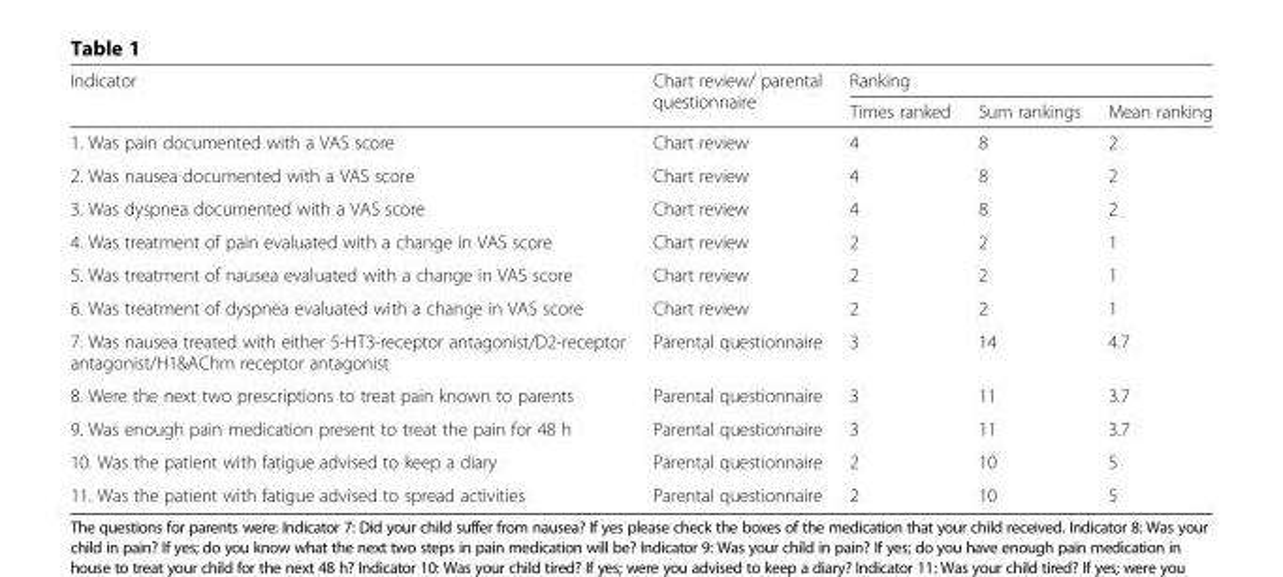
<table><thead><tr><td rowspan="2">Indicator</td><td rowspan="2">Chart review/ parental questionnaire</td><td colspan="3">Ranking</td></tr><tr><td>Times ranked</td><td>Sum rankings</td><td>Mean ranking</td></tr></thead><tbody><tr><td>1. Was pain documented with a VAS score</td><td>Chart review</td><td>4</td><td>8</td><td>2</td></tr><tr><td>2. Was nausea documented with a VAS score</td><td>Chart review</td><td>4</td><td>8</td><td>2</td></tr><tr><td>3. Was dyspnea documented with a VAS score</td><td>Chart review</td><td>4</td><td>8</td><td>2</td></tr><tr><td>4. Was treatment of pain evaluated with a change in VAS score</td><td>Chart review</td><td>2</td><td>2</td><td>1</td></tr><tr><td>5. Was treatment of nausea evaluated with a change in VAS score</td><td>Chart review</td><td>2</td><td>2</td><td>1</td></tr><tr><td>6. Was treatment of dyspnea evaluated with a change in VAS score</td><td>Chart review</td><td>2</td><td>2</td><td>1</td></tr><tr><td>7. Was nausea treated with either 5-HT3-receptor antagonist/D2-receptor antagonist/H1&amp;AChm receptor antagonist</td><td>Parental questionnaire</td><td>3</td><td>14</td><td>4.7</td></tr><tr><td>8. Were the next two prescriptions to treat pain known to parents</td><td>Parental questionnaire</td><td>3</td><td>11</td><td>3.7</td></tr><tr><td>9. Was enough pain medication present to treat the pain for 48 h</td><td>Parental questionnaire</td><td>3</td><td>11</td><td>3.7</td></tr><tr><td>10. Was the patient with fatigue advised to keep a diary</td><td>Parental questionnaire</td><td>2</td><td>10</td><td>5</td></tr><tr><td>11. Was the patient with fatigue advised to spread activities</td><td>Parental questionnaire</td><td>2</td><td>10</td><td>5</td></tr></tbody></table>